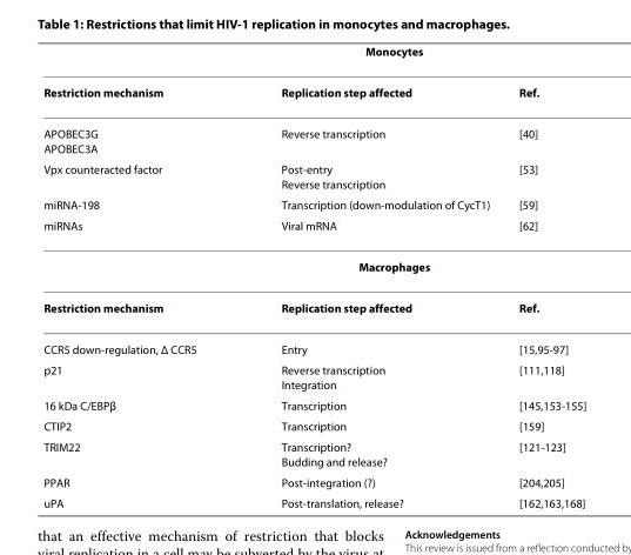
<table><thead><tr><td colspan="3">Monocytes</td></tr><tr><td>Restriction mechanism</td><td>Replication step affected</td><td>Ref.</td></tr></thead><tbody><tr><td>APOBEC3G APOBEC3A</td><td>Reverse transcription</td><td>[40]</td></tr><tr><td>Vpx counteracted factor</td><td>Post-entry Reverse transcription</td><td>[53]</td></tr><tr><td>miRNA-198</td><td>Transcription (down-modulation of CycT1)</td><td>[59]</td></tr><tr><td>miRNAs</td><td>Viral mRNA</td><td>[62]</td></tr><tr><td colspan="3">Macrophages</td></tr><tr><td>Restriction mechanism</td><td>Replication step affected</td><td>Ref.</td></tr><tr><td>CCR5 down-regulation, Δ CCR5</td><td>Entry</td><td>[15,95-97]</td></tr><tr><td>p21</td><td>Reverse transcription Integration</td><td>[111,118]</td></tr><tr><td>16 kDa C/EBPβ</td><td>Transcription</td><td>[145,153-155]</td></tr><tr><td>CTIP2</td><td>Transcription</td><td>[159]</td></tr><tr><td>TRIM22</td><td>Transcription? Budding and release?</td><td>[121-123]</td></tr><tr><td>PPAR</td><td>Post-integration (?)</td><td>[204,205]</td></tr><tr><td>uPA</td><td>Post-translation, release?</td><td>[162,163,168]</td></tr></tbody></table>